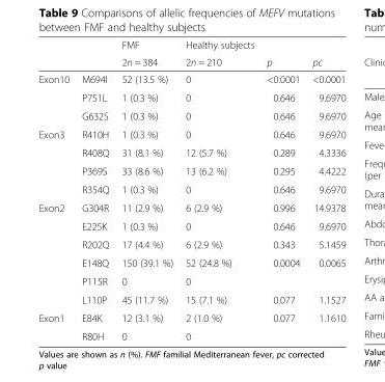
<table><thead><tr><td rowspan="2"></td><td rowspan="2"></td><td rowspan="2">FMF 2n = 384</td><td rowspan="2">Healthy subjects 2n = 210</td><td rowspan="2">p</td><td rowspan="2">pc</td></tr><tr></tr></thead><tbody><tr><td rowspan="3">Exon10</td><td>M694I</td><td>52 (13.5 %)</td><td>0</td><td>&lt;0.0001</td><td>&lt;0.0001</td></tr><tr><td>P751L</td><td>1 (0.3 %)</td><td>0</td><td>0.646</td><td>9.6970</td></tr><tr><td>G632S</td><td>1 (0.3 %)</td><td>0</td><td>0.646</td><td>9.6970</td></tr><tr><td rowspan="4">Exon3</td><td>R410H</td><td>1 (0.3 %)</td><td>0</td><td>0.646</td><td>9.6970</td></tr><tr><td>R408Q</td><td>31 (8.1 %)</td><td>12 (5.7 %)</td><td>0.289</td><td>4.3336</td></tr><tr><td>P369S</td><td>33 (8.6 %)</td><td>13 (6.2 %)</td><td>0.295</td><td>4.4222</td></tr><tr><td>R354Q</td><td>1 (0.3 %)</td><td>0</td><td>0.646</td><td>9.6970</td></tr><tr><td rowspan="6">Exon2</td><td>G304R</td><td>11 (2.9 %)</td><td>6 (2.9 %)</td><td>0.996</td><td>14.9378</td></tr><tr><td>E225K</td><td>1 (0.3 %)</td><td>0</td><td>0.646</td><td>9.6970</td></tr><tr><td>R202Q</td><td>17 (4.4 %)</td><td>6 (2.9 %)</td><td>0.343</td><td>5.1459</td></tr><tr><td>E148Q</td><td>150 (39.1 %)</td><td>52 (24.8 %)</td><td>0.0004</td><td>0.0065</td></tr><tr><td>P115R</td><td>0</td><td>0</td><td></td><td></td></tr><tr><td>L110P</td><td>45 (11.7 %)</td><td>15 (7.1 %)</td><td>0.077</td><td>1.1527</td></tr><tr><td rowspan="2">Exon1</td><td>E84K</td><td>12 (3.1 %)</td><td>2 (1.0 %)</td><td>0.077</td><td>1.1610</td></tr><tr><td>R80H</td><td>0</td><td>0</td><td></td><td></td></tr></tbody></table>